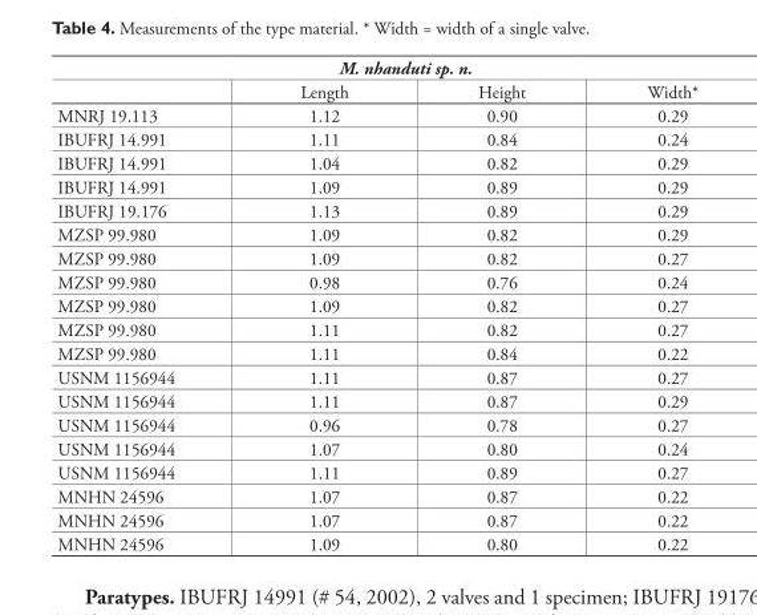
<table><thead><tr><td colspan="4">M. nhanduti sp. n.</td></tr><tr><td></td><td>Length</td><td>Height</td><td>Width*</td></tr></thead><tbody><tr><td>MNRJ 19.113</td><td>1.12</td><td>0.90</td><td>0.29</td></tr><tr><td>IBUFRJ 14.991</td><td>1.11</td><td>0.84</td><td>0.24</td></tr><tr><td>IBUFRJ 14.991</td><td>1.04</td><td>0.82</td><td>0.29</td></tr><tr><td>IBUFRJ 14.991</td><td>1.09</td><td>0.89</td><td>0.29</td></tr><tr><td>IBUFRJ 19.176</td><td>1.13</td><td>0.89</td><td>0.29</td></tr><tr><td>MZSP 99.980</td><td>1.09</td><td>0.82</td><td>0.29</td></tr><tr><td>MZSP 99.980</td><td>1.09</td><td>0.82</td><td>0.27</td></tr><tr><td>MZSP 99.980</td><td>0.98</td><td>0.76</td><td>0.24</td></tr><tr><td>MZSP 99.980</td><td>1.09</td><td>0.82</td><td>0.27</td></tr><tr><td>MZSP 99.980</td><td>1.11</td><td>0.82</td><td>0.27</td></tr><tr><td>MZSP 99.980</td><td>1.11</td><td>0.84</td><td>0.22</td></tr><tr><td>USNM 1156944</td><td>1.11</td><td>0.87</td><td>0.27</td></tr><tr><td>USNM 1156944</td><td>1.11</td><td>0.87</td><td>0.29</td></tr><tr><td>USNM 1156944</td><td>0.96</td><td>0.78</td><td>0.27</td></tr><tr><td>USNM 1156944</td><td>1.07</td><td>0.80</td><td>0.24</td></tr><tr><td>USNM 1156944</td><td>1.11</td><td>0.89</td><td>0.27</td></tr><tr><td>MNHN 24596</td><td>1.07</td><td>0.87</td><td>0.22</td></tr><tr><td>MNHN 24596</td><td>1.07</td><td>0.87</td><td>0.22</td></tr><tr><td>MNHN 24596</td><td>1.09</td><td>0.80</td><td>0.22</td></tr></tbody></table>